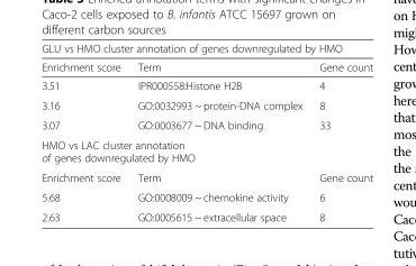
<table><tbody><tr><td colspan="3">GLU vs HMO cluster annotation of genes downregulated by HMO</td></tr><tr><td>Enrichment score</td><td>Term</td><td>Gene count</td></tr><tr><td>3.51</td><td>IPR000558:Histone H2B</td><td>4</td></tr><tr><td>3.16</td><td>GO:0032993 ~ protein-DNA complex</td><td>8</td></tr><tr><td>3.07</td><td>GO:0003677 ~ DNA binding</td><td>33</td></tr><tr><td colspan="3">HMO vs LAC cluster annotation of genes downregulated by HMO</td></tr><tr><td>Enrichment score</td><td>Term</td><td>Gene count</td></tr><tr><td>5.68</td><td>GO:0008009 ~ chemokine activity</td><td>6</td></tr><tr><td>2.63</td><td>GO:0005615 ~ extracellular space</td><td>8</td></tr></tbody></table>